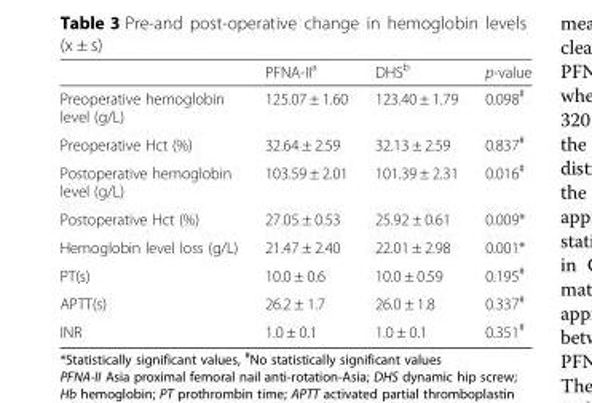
<table><thead><tr><td></td><td>PFNA-II<sup>a</sup></td><td>DHS<sup>b</sup></td><td>p-value</td></tr></thead><tbody><tr><td>Preoperative hemoglobin level (g/L)</td><td>125.07 ± 1.60</td><td>123.40 ± 1.79</td><td>0.098<sup>#</sup></td></tr><tr><td>Preoperative Hct (%)</td><td>32.64 ± 2.59</td><td>32.13 ± 2.59</td><td>0.837<sup>#</sup></td></tr><tr><td>Postoperative hemoglobin level (g/L)</td><td>103.59 ± 2.01</td><td>101.39 ± 2.31</td><td>0.016<sup>#</sup></td></tr><tr><td>Postoperative Hct (%)</td><td>27.05 ± 0.53</td><td>25.92 ± 0.61</td><td>0.009*</td></tr><tr><td>Hemoglobin level loss (g/L)</td><td>21.47 ± 2.40</td><td>22.01 ± 2.98</td><td>0.001*</td></tr><tr><td>PT(s)</td><td>10.0 ± 0.6</td><td>10.0 ± 0.59</td><td>0.195<sup>#</sup></td></tr><tr><td>APTT(s)</td><td>26.2 ± 1.7</td><td>26.0 ± 1.8</td><td>0.337<sup>#</sup></td></tr><tr><td>INR</td><td>1.0 ± 0.1</td><td>1.0 ± 0.1</td><td>0.351<sup>#</sup></td></tr></tbody></table>